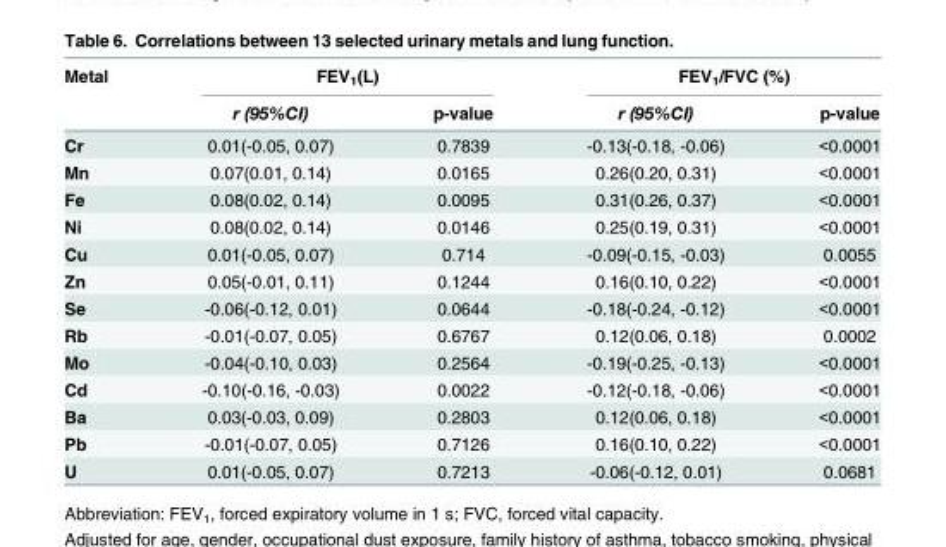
<table><thead><tr><td rowspan="2">Metal</td><td colspan="2">FEV<sub>1</sub>(L)</td><td colspan="2">FEV<sub>1</sub>/FVC (%)</td></tr><tr><td>r (95%CI)</td><td>p-value</td><td>r (95%CI)</td><td>p-value</td></tr></thead><tbody><tr><td>Cr</td><td>0.01(-0.05, 0.07)</td><td>0.7839</td><td>-0.13(-0.18, -0.06)</td><td>&lt;0.0001</td></tr><tr><td>Mn</td><td>0.07(0.01, 0.14)</td><td>0.0165</td><td>0.26(0.20, 0.31)</td><td>&lt;0.0001</td></tr><tr><td>Fe</td><td>0.08(0.02, 0.14)</td><td>0.0095</td><td>0.31(0.26, 0.37)</td><td>&lt;0.0001</td></tr><tr><td>Ni</td><td>0.08(0.02, 0.14)</td><td>0.0146</td><td>0.25(0.19, 0.31)</td><td>&lt;0.0001</td></tr><tr><td>Cu</td><td>0.01(-0.05, 0.07)</td><td>0.714</td><td>-0.09(-0.15, -0.03)</td><td>0.0055</td></tr><tr><td>Zn</td><td>0.05(-0.01, 0.11)</td><td>0.1244</td><td>0.16(0.10, 0.22)</td><td>&lt;0.0001</td></tr><tr><td>Se</td><td>-0.06(-0.12, 0.01)</td><td>0.0644</td><td>-0.18(-0.24, -0.12)</td><td>&lt;0.0001</td></tr><tr><td>Rb</td><td>-0.01(-0.07, 0.05)</td><td>0.6767</td><td>0.12(0.06, 0.18)</td><td>0.0002</td></tr><tr><td>Mo</td><td>-0.04(-0.10, 0.03)</td><td>0.2564</td><td>-0.19(-0.25, -0.13)</td><td>&lt;0.0001</td></tr><tr><td>Cd</td><td>-0.10(-0.16, -0.03)</td><td>0.0022</td><td>-0.12(-0.18, -0.06)</td><td>&lt;0.0001</td></tr><tr><td>Ba</td><td>0.03(-0.03, 0.09)</td><td>0.2803</td><td>0.12(0.06, 0.18)</td><td>&lt;0.0001</td></tr><tr><td>Pb</td><td>-0.01(-0.07, 0.05)</td><td>0.7126</td><td>0.16(0.10, 0.22)</td><td>&lt;0.0001</td></tr><tr><td>U</td><td>0.01(-0.05, 0.07)</td><td>0.7213</td><td>-0.06(-0.12, 0.01)</td><td>0.0681</td></tr></tbody></table>